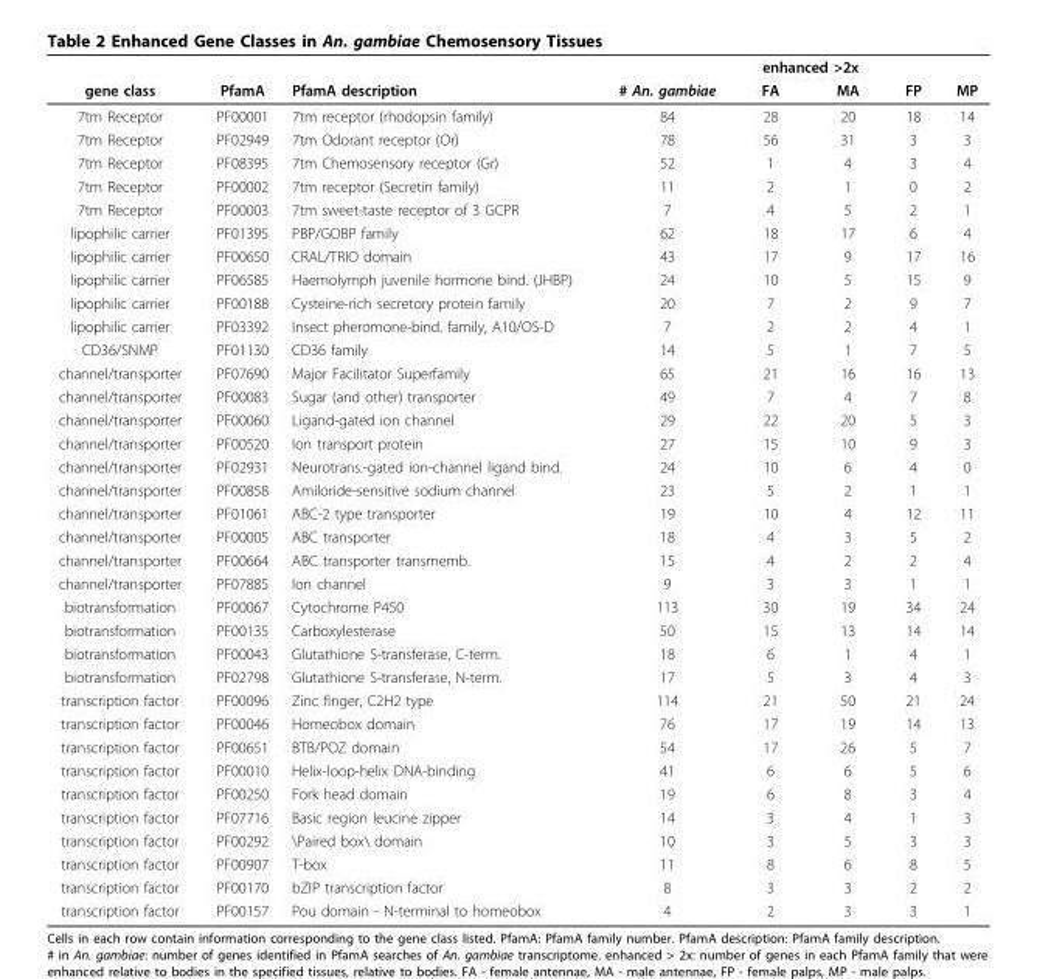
<table><thead><tr><td rowspan="2">gene class</td><td rowspan="2">PfamA</td><td rowspan="2">PfamA description</td><td rowspan="2"># An. gambiae</td><td colspan="2">enhanced &gt;2x</td><td rowspan="2">FP</td><td rowspan="2">MP</td></tr><tr><td>FA</td><td>MA</td></tr></thead><tbody><tr><td>7tm Receptor</td><td>PF00001</td><td>7tm receptor (rhodopsin family)</td><td>84</td><td>28</td><td>20</td><td>18</td><td>14</td></tr><tr><td>7tm Receptor</td><td>PF02949</td><td>7tm Odorant receptor (Or)</td><td>78</td><td>56</td><td>31</td><td>3</td><td>3</td></tr><tr><td>7tm Receptor</td><td>PF08395</td><td>7tm Chemosensory receptor (Gr)</td><td>52</td><td>1</td><td>4</td><td>3</td><td>4</td></tr><tr><td>7tm Receptor</td><td>PF00002</td><td>7tm receptor (Secretin family)</td><td>11</td><td>2</td><td>1</td><td>0</td><td>2</td></tr><tr><td>7tm Receptor</td><td>PF00003</td><td>7tm sweet-taste receptor of 3 GCPR</td><td>7</td><td>4</td><td>5</td><td>2</td><td>1</td></tr><tr><td>lipophilic carrier</td><td>PF01395</td><td>PBP/GOBP family</td><td>62</td><td>18</td><td>17</td><td>6</td><td>4</td></tr><tr><td>lipophilic carrier</td><td>PF00650</td><td>CRAL/TRIO domain</td><td>43</td><td>17</td><td>9</td><td>17</td><td>16</td></tr><tr><td>lipophilic carrier</td><td>PF06585</td><td>Haemolymph juvenile hormone bind. (JHBP)</td><td>24</td><td>10</td><td>5</td><td>15</td><td>9</td></tr><tr><td>lipophilic carrier</td><td>PF00188</td><td>Cysteine-rich secretory protein family</td><td>20</td><td>7</td><td>2</td><td>9</td><td>7</td></tr><tr><td>lipophilic carrier</td><td>PF03392</td><td>Insect pheromone-bind. family, A10/OS-D</td><td>7</td><td>2</td><td>2</td><td>4</td><td>1</td></tr><tr><td>CD36/SNMP</td><td>PF01130</td><td>CD36 family</td><td>14</td><td>5</td><td>1</td><td>7</td><td>5</td></tr><tr><td>channel/transporter</td><td>PF07690</td><td>Major Facilitator Superfamily</td><td>65</td><td>21</td><td>16</td><td>16</td><td>13</td></tr><tr><td>channel/transporter</td><td>PF00083</td><td>Sugar (and other) transporter</td><td>49</td><td>7</td><td>4</td><td>7</td><td>8</td></tr><tr><td>channel/transporter</td><td>PF00060</td><td>Ligand-gated ion channel</td><td>29</td><td>22</td><td>20</td><td>5</td><td>3</td></tr><tr><td>channel/transporter</td><td>PF00520</td><td>Ion transport protein</td><td>27</td><td>15</td><td>10</td><td>9</td><td>3</td></tr><tr><td>channel/transporter</td><td>PF02931</td><td>Neurotrans.-gated ion-channel ligand bind.</td><td>24</td><td>10</td><td>6</td><td>4</td><td>0</td></tr><tr><td>channel/transporter</td><td>PF00858</td><td>Amiloride-sensitive sodium channel</td><td>23</td><td>5</td><td>2</td><td>1</td><td>1</td></tr><tr><td>channel/transporter</td><td>PF01061</td><td>ABC-2 type transporter</td><td>19</td><td>10</td><td>4</td><td>12</td><td>11</td></tr><tr><td>channel/transporter</td><td>PF00005</td><td>ABC transporter</td><td>18</td><td>4</td><td>3</td><td>5</td><td>2</td></tr><tr><td>channel/transporter</td><td>PF00664</td><td>ABC transporter transmemb.</td><td>15</td><td>4</td><td>2</td><td>2</td><td>4</td></tr><tr><td>channel/transporter</td><td>PF07885</td><td>Ion channel</td><td>9</td><td>3</td><td>3</td><td>1</td><td>1</td></tr><tr><td>biotransformation</td><td>PF00067</td><td>Cytochrome P450</td><td>113</td><td>30</td><td>19</td><td>34</td><td>24</td></tr><tr><td>biotransformation</td><td>PF00135</td><td>Carboxylesterase</td><td>50</td><td>15</td><td>13</td><td>14</td><td>14</td></tr><tr><td>biotransformation</td><td>PF00043</td><td>Glutathione S-transferase, C-term.</td><td>18</td><td>6</td><td>1</td><td>4</td><td>1</td></tr><tr><td>biotransformation</td><td>PF02798</td><td>Glutathione S-transferase, N-term.</td><td>17</td><td>5</td><td>3</td><td>4</td><td>3</td></tr><tr><td>transcription factor</td><td>PF00096</td><td>Zinc finger, C2H2 type</td><td>114</td><td>21</td><td>50</td><td>21</td><td>24</td></tr><tr><td>transcription factor</td><td>PF00046</td><td>Homeobox domain</td><td>76</td><td>17</td><td>19</td><td>14</td><td>13</td></tr><tr><td>transcription factor</td><td>PF00651</td><td>BTB/POZ domain</td><td>54</td><td>17</td><td>26</td><td>5</td><td>7</td></tr><tr><td>transcription factor</td><td>PF00010</td><td>Helix-loop-helix DNA-binding</td><td>41</td><td>6</td><td>6</td><td>5</td><td>6</td></tr><tr><td>transcription factor</td><td>PF00250</td><td>Fork head domain</td><td>19</td><td>6</td><td>8</td><td>3</td><td>4</td></tr><tr><td>transcription factor</td><td>PF07716</td><td>Basic region leucine zipper</td><td>14</td><td>3</td><td>4</td><td>1</td><td>3</td></tr><tr><td>transcription factor</td><td>PF00292</td><td>\Paired box\ domain</td><td>10</td><td>3</td><td>5</td><td>3</td><td>3</td></tr><tr><td>transcription factor</td><td>PF00907</td><td>T-box</td><td>11</td><td>8</td><td>6</td><td>8</td><td>5</td></tr><tr><td>transcription factor</td><td>PF00170</td><td>bZIP transcription factor</td><td>8</td><td>3</td><td>3</td><td>2</td><td>2</td></tr><tr><td>transcription factor</td><td>PF00157</td><td>Pou domain - N-terminal to homeobox</td><td>4</td><td>2</td><td>3</td><td>3</td><td>1</td></tr></tbody></table>